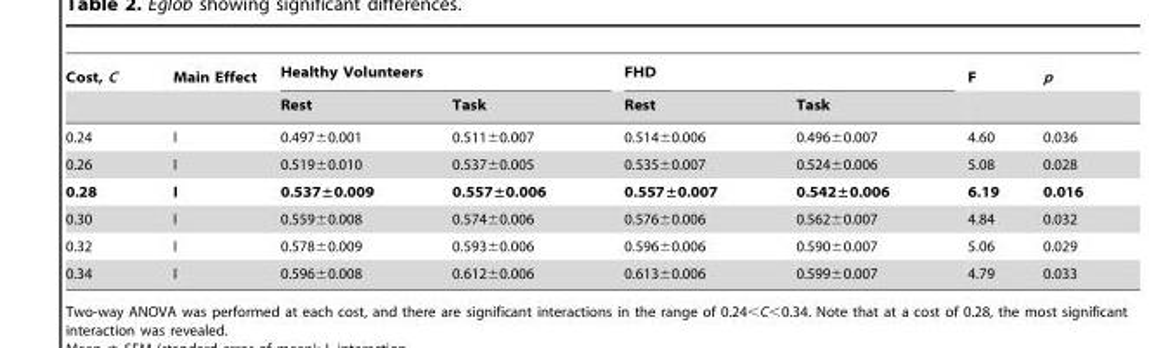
<table><thead><tr><td rowspan="2">Cost, C</td><td rowspan="2">Main Effect</td><td colspan="2">Healthy Volunteers</td><td colspan="2">FHD</td><td rowspan="2">F</td><td rowspan="2">p</td></tr><tr><td>Rest</td><td>Task</td><td>Rest</td><td>Task</td></tr></thead><tbody><tr><td>0.24</td><td>I</td><td>0.497±0.001</td><td>0.511±0.007</td><td>0.514±0.006</td><td>0.496±0.007</td><td>4.60</td><td>0.036</td></tr><tr><td>0.26</td><td>I</td><td>0.519±0.010</td><td>0.537±0.005</td><td>0.535±0.007</td><td>0.524±0.006</td><td>5.08</td><td>0.028</td></tr><tr><td>0.28</td><td>I</td><td>0.537±0.009</td><td>0.557±0.006</td><td>0.557±0.007</td><td>0.542±0.006</td><td>6.19</td><td>0.016</td></tr><tr><td>0.30</td><td>I</td><td>0.559±0.008</td><td>0.574±0.006</td><td>0.576±0.006</td><td>0.562±0.007</td><td>4.84</td><td>0.032</td></tr><tr><td>0.32</td><td>I</td><td>0.578±0.009</td><td>0.593±0.006</td><td>0.596±0.006</td><td>0.590±0.007</td><td>5.06</td><td>0.029</td></tr><tr><td>0.34</td><td>I</td><td>0.596±0.008</td><td>0.612±0.006</td><td>0.613±0.006</td><td>0.599±0.007</td><td>4.79</td><td>0.033</td></tr></tbody></table>